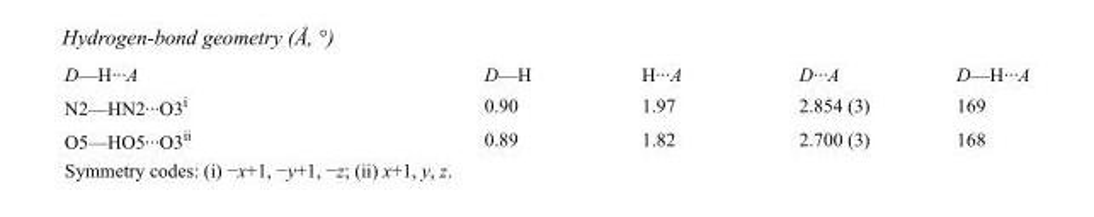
<table><tbody><tr><td>D—H···A</td><td>D—H</td><td>H···A</td><td>D···A</td><td>D—H···A</td></tr><tr><td>N2—HN2···O3<sup>i</sup></td><td>0.90</td><td>1.97</td><td>2.854 (3)</td><td>169</td></tr><tr><td>O5—HO5···O3<sup>ii</sup></td><td>0.89</td><td>1.82</td><td>2.700 (3)</td><td>168</td></tr></tbody></table>